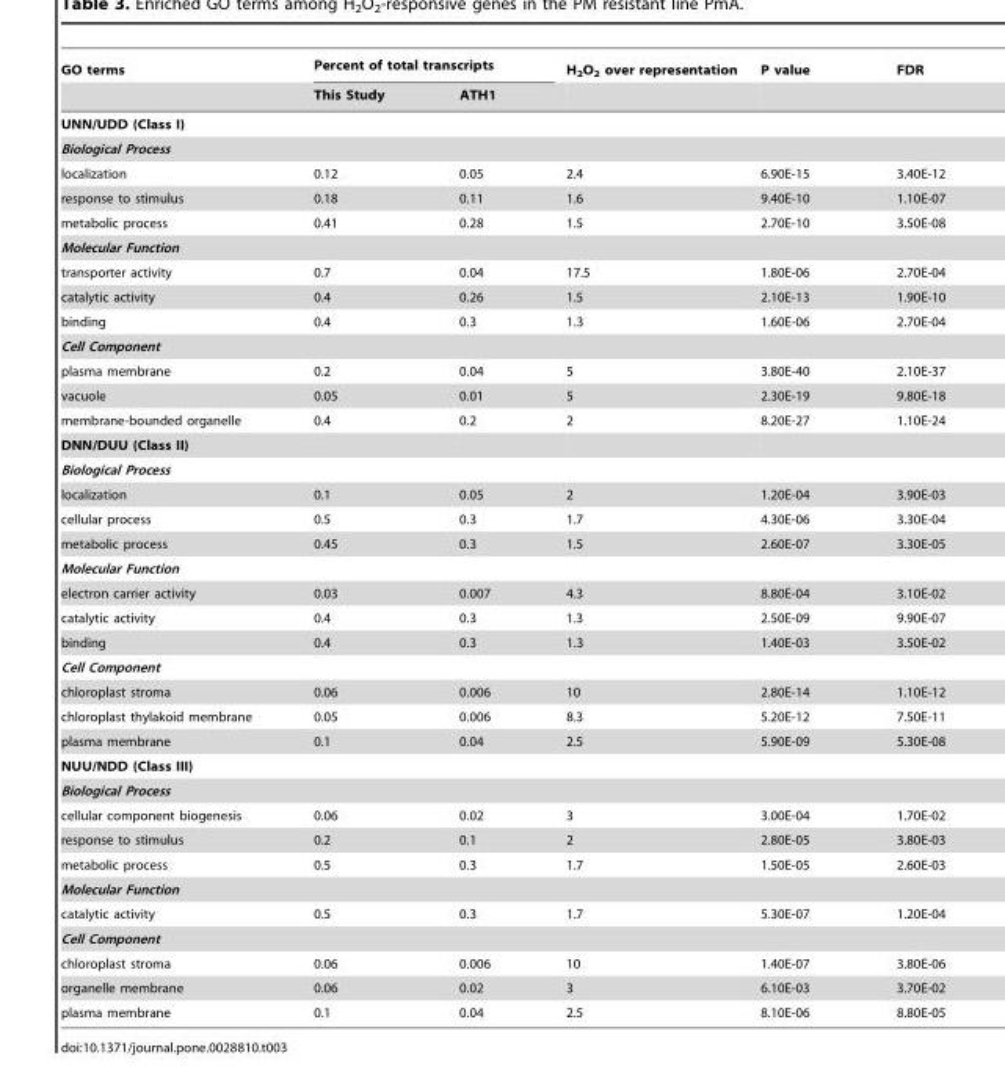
<table><thead><tr><td rowspan="2">GO terms</td><td colspan="2">Percent of total transcripts</td><td rowspan="2">H<sub>2</sub>O<sub>2</sub> over representation</td><td rowspan="2">P value</td><td rowspan="2">FDR</td></tr><tr><td>This Study</td><td>ATH1</td></tr></thead><tbody><tr><td colspan="6">UNN/UDD (Class I)</td></tr><tr><td colspan="6">Biological Process</td></tr><tr><td>localization</td><td>0.12</td><td>0.05</td><td>2.4</td><td>6.90E-15</td><td>3.40E-12</td></tr><tr><td>response to stimulus</td><td>0.18</td><td>0.11</td><td>1.6</td><td>9.40E-10</td><td>1.10E-07</td></tr><tr><td>metabolic process</td><td>0.41</td><td>0.28</td><td>1.5</td><td>2.70E-10</td><td>3.50E-08</td></tr><tr><td colspan="6">Molecular Function</td></tr><tr><td>transporter activity</td><td>0.7</td><td>0.04</td><td>17.5</td><td>1.80E-06</td><td>2.70E-04</td></tr><tr><td>catalytic activity</td><td>0.4</td><td>0.26</td><td>1.5</td><td>2.10E-13</td><td>1.90E-10</td></tr><tr><td>binding</td><td>0.4</td><td>0.3</td><td>1.3</td><td>1.60E-06</td><td>2.70E-04</td></tr><tr><td colspan="6">Cell Component</td></tr><tr><td>plasma membrane</td><td>0.2</td><td>0.04</td><td>5</td><td>3.80E-40</td><td>2.10E-37</td></tr><tr><td>vacuole</td><td>0.05</td><td>0.01</td><td>5</td><td>2.30E-19</td><td>9.80E-18</td></tr><tr><td>membrane-bounded organelle</td><td>0.4</td><td>0.2</td><td>2</td><td>8.20E-27</td><td>1.10E-24</td></tr><tr><td colspan="6">DNN/DUU (Class II)</td></tr><tr><td colspan="6">Biological Process</td></tr><tr><td>localization</td><td>0.1</td><td>0.05</td><td>2</td><td>1.20E-04</td><td>3.90E-03</td></tr><tr><td>cellular process</td><td>0.5</td><td>0.3</td><td>1.7</td><td>4.30E-06</td><td>3.30E-04</td></tr><tr><td>metabolic process</td><td>0.45</td><td>0.3</td><td>1.5</td><td>2.60E-07</td><td>3.30E-05</td></tr><tr><td colspan="6">Molecular Function</td></tr><tr><td>electron carrier activity</td><td>0.03</td><td>0.007</td><td>4.3</td><td>8.80E-04</td><td>3.10E-02</td></tr><tr><td>catalytic activity</td><td>0.4</td><td>0.3</td><td>1.3</td><td>2.50E-09</td><td>9.90E-07</td></tr><tr><td>binding</td><td>0.4</td><td>0.3</td><td>1.3</td><td>1.40E-03</td><td>3.50E-02</td></tr><tr><td colspan="6">Cell Component</td></tr><tr><td>chloroplast stroma</td><td>0.06</td><td>0.006</td><td>10</td><td>2.80E-14</td><td>1.10E-12</td></tr><tr><td>chloroplast thylakoid membrane</td><td>0.05</td><td>0.006</td><td>8.3</td><td>5.20E-12</td><td>7.50E-11</td></tr><tr><td>plasma membrane</td><td>0.1</td><td>0.04</td><td>2.5</td><td>5.90E-09</td><td>5.30E-08</td></tr><tr><td colspan="6">NUU/NDD (Class III)</td></tr><tr><td colspan="6">Biological Process</td></tr><tr><td>cellular component biogenesis</td><td>0.06</td><td>0.02</td><td>3</td><td>3.00E-04</td><td>1.70E-02</td></tr><tr><td>response to stimulus</td><td>0.2</td><td>0.1</td><td>2</td><td>2.80E-05</td><td>3.80E-03</td></tr><tr><td>metabolic process</td><td>0.5</td><td>0.3</td><td>1.7</td><td>1.50E-05</td><td>2.60E-03</td></tr><tr><td colspan="6">Molecular Function</td></tr><tr><td>catalytic activity</td><td>0.5</td><td>0.3</td><td>1.7</td><td>5.30E-07</td><td>1.20E-04</td></tr><tr><td colspan="6">Cell Component</td></tr><tr><td>chloroplast stroma</td><td>0.06</td><td>0.006</td><td>10</td><td>1.40E-07</td><td>3.80E-06</td></tr><tr><td>organelle membrane</td><td>0.06</td><td>0.02</td><td>3</td><td>6.10E-03</td><td>3.70E-02</td></tr><tr><td>plasma membrane</td><td>0.1</td><td>0.04</td><td>2.5</td><td>8.10E-06</td><td>8.80E-05</td></tr></tbody></table>